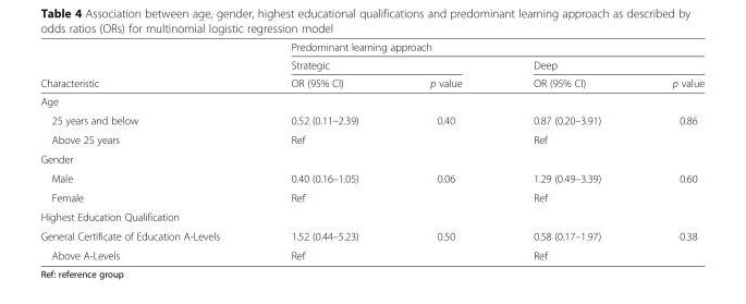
<table><thead><tr><td rowspan="3">Characteristic</td><td colspan="4">Predominant learning approach</td></tr><tr><td colspan="2">Strategic</td><td colspan="2">Deep</td></tr><tr><td>OR (95% Cl)</td><td>p value</td><td>OR (95% Cl)</td><td>p value</td></tr></thead><tbody><tr><td colspan="5">Age</td></tr><tr><td>25 years and below</td><td>0.52 (0.11–2.39)</td><td>0.40</td><td>0.87 (0.20–3.91)</td><td>0.86</td></tr><tr><td>Above 25 years</td><td>Ref</td><td></td><td>Ref</td><td></td></tr><tr><td colspan="5">Gender</td></tr><tr><td>Male</td><td>0.40 (0.16–1.05)</td><td>0.06</td><td>1.29 (0.49–3.39)</td><td>0.60</td></tr><tr><td>Female</td><td>Ref</td><td></td><td>Ref</td><td></td></tr><tr><td colspan="5">Highest Education Qualification</td></tr><tr><td>General Certificate of Education A-Levels</td><td>1.52 (0.44–5.23)</td><td>0.50</td><td>0.58 (0.17–1.97)</td><td>0.38</td></tr><tr><td>Above A-Levels</td><td>Ref</td><td></td><td>Ref</td><td></td></tr></tbody></table>